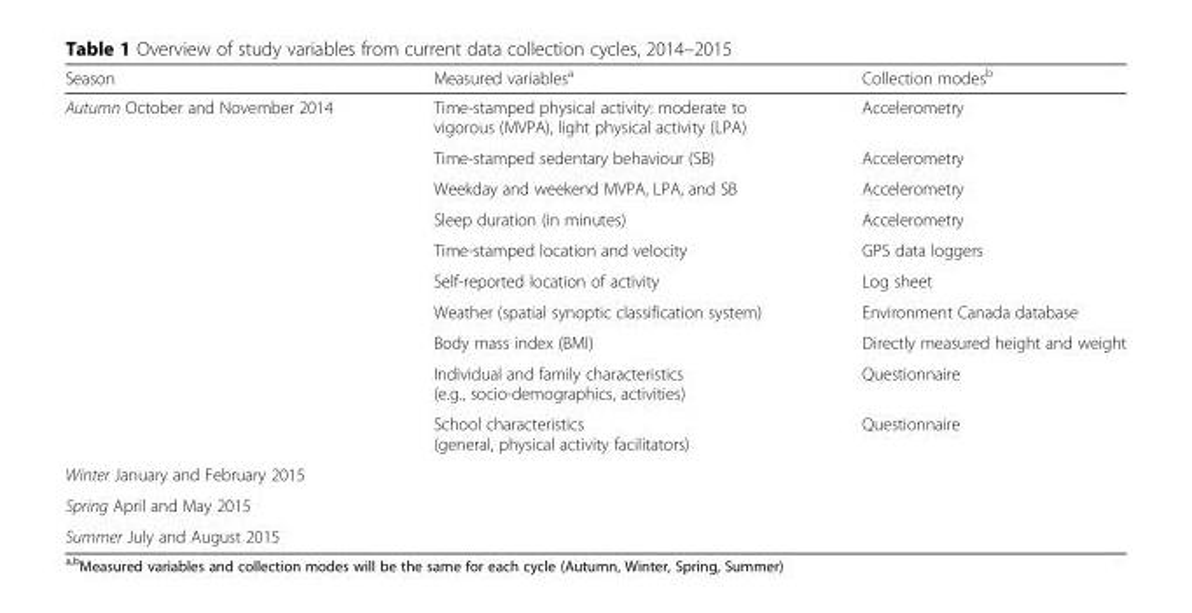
<table><thead><tr><td>Season</td><td>Measured variables<sup>a</sup></td><td>Collection modes<sup>b</sup></td></tr></thead><tbody><tr><td rowspan="10">Autumn October and November 2014</td><td>Time-stamped physical activity: moderate to vigorous (MVPA), light physical activity (LPA)</td><td>Accelerometry</td></tr><tr><td>Time-stamped sedentary behaviour (SB)</td><td>Accelerometry</td></tr><tr><td>Weekday and weekend MVPA, LPA, and SB</td><td>Accelerometry</td></tr><tr><td>Sleep duration (in minutes)</td><td>Accelerometry</td></tr><tr><td>Time-stamped location and velocity</td><td>GPS data loggers</td></tr><tr><td>Self-reported location of activity</td><td>Log sheet</td></tr><tr><td>Weather (spatial synoptic classification system)</td><td>Environment Canada database</td></tr><tr><td>Body mass index (BMI)</td><td>Directly measured height and weight</td></tr><tr><td>Individual and family characteristics (e.g., socio-demographics, activities)</td><td>Questionnaire</td></tr><tr><td>School characteristics (general, physical activity facilitators)</td><td>Questionnaire</td></tr><tr><td colspan="3">Winter January and February 2015</td></tr><tr><td colspan="3">Spring April and May 2015</td></tr><tr><td>Summer July and August 2015</td><td></td><td></td></tr></tbody></table>